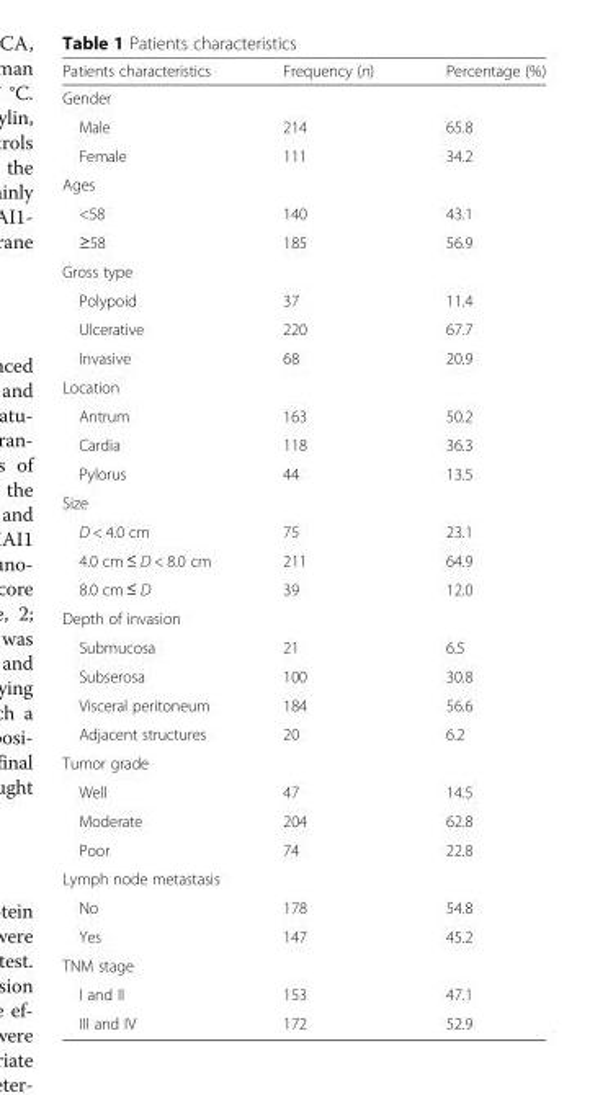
<table><thead><tr><td>Patients characteristics</td><td>Frequency (n)</td><td>Percentage (%)</td></tr></thead><tbody><tr><td colspan="3">Gender</td></tr><tr><td>Male</td><td>214</td><td>65.8</td></tr><tr><td>Female</td><td>111</td><td>34.2</td></tr><tr><td colspan="3">Ages</td></tr><tr><td>&lt;58</td><td>140</td><td>43.1</td></tr><tr><td>≥58</td><td>185</td><td>56.9</td></tr><tr><td colspan="3">Gross type</td></tr><tr><td>Polypoid</td><td>37</td><td>11.4</td></tr><tr><td>Ulcerative</td><td>220</td><td>67.7</td></tr><tr><td>Invasive</td><td>68</td><td>20.9</td></tr><tr><td colspan="3">Location</td></tr><tr><td>Antrum</td><td>163</td><td>50.2</td></tr><tr><td>Cardia</td><td>118</td><td>36.3</td></tr><tr><td>Pylorus</td><td>44</td><td>13.5</td></tr><tr><td colspan="3">Size</td></tr><tr><td>D &lt; 4.0 cm</td><td>75</td><td>23.1</td></tr><tr><td>4.0 cm ≤ D &lt; 8.0 cm</td><td>211</td><td>64.9</td></tr><tr><td>8.0 cm ≤ D</td><td>39</td><td>12.0</td></tr><tr><td colspan="3">Depth of invasion</td></tr><tr><td>Submucosa</td><td>21</td><td>6.5</td></tr><tr><td>Subserosa</td><td>100</td><td>30.8</td></tr><tr><td>Visceral peritoneum</td><td>184</td><td>56.6</td></tr><tr><td>Adjacent structures</td><td>20</td><td>6.2</td></tr><tr><td colspan="3">Tumor grade</td></tr><tr><td>Well</td><td>47</td><td>14.5</td></tr><tr><td>Moderate</td><td>204</td><td>62.8</td></tr><tr><td>Poor</td><td>74</td><td>22.8</td></tr><tr><td colspan="3">Lymph node metastasis</td></tr><tr><td>No</td><td>178</td><td>54.8</td></tr><tr><td>Yes</td><td>147</td><td>45.2</td></tr><tr><td colspan="3">TNM stage</td></tr><tr><td>I and II</td><td>153</td><td>47.1</td></tr><tr><td>III and IV</td><td>172</td><td>52.9</td></tr></tbody></table>